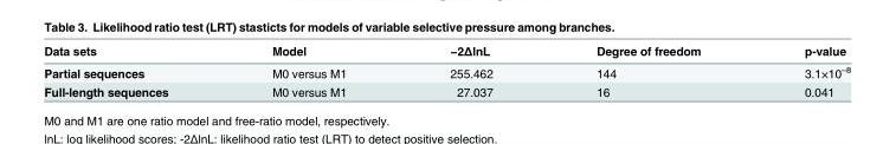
<table><thead><tr><td>Data sets</td><td>Model</td><td>−2ΔlnL</td><td>Degree of freedom</td><td>p-value</td></tr></thead><tbody><tr><td>Partial sequences</td><td>M0 versus M1</td><td>255.462</td><td>144</td><td>3.1×10<sup>–8</sup></td></tr><tr><td>Full-length sequences</td><td>M0 versus M1</td><td>27.037</td><td>16</td><td>0.041</td></tr></tbody></table>